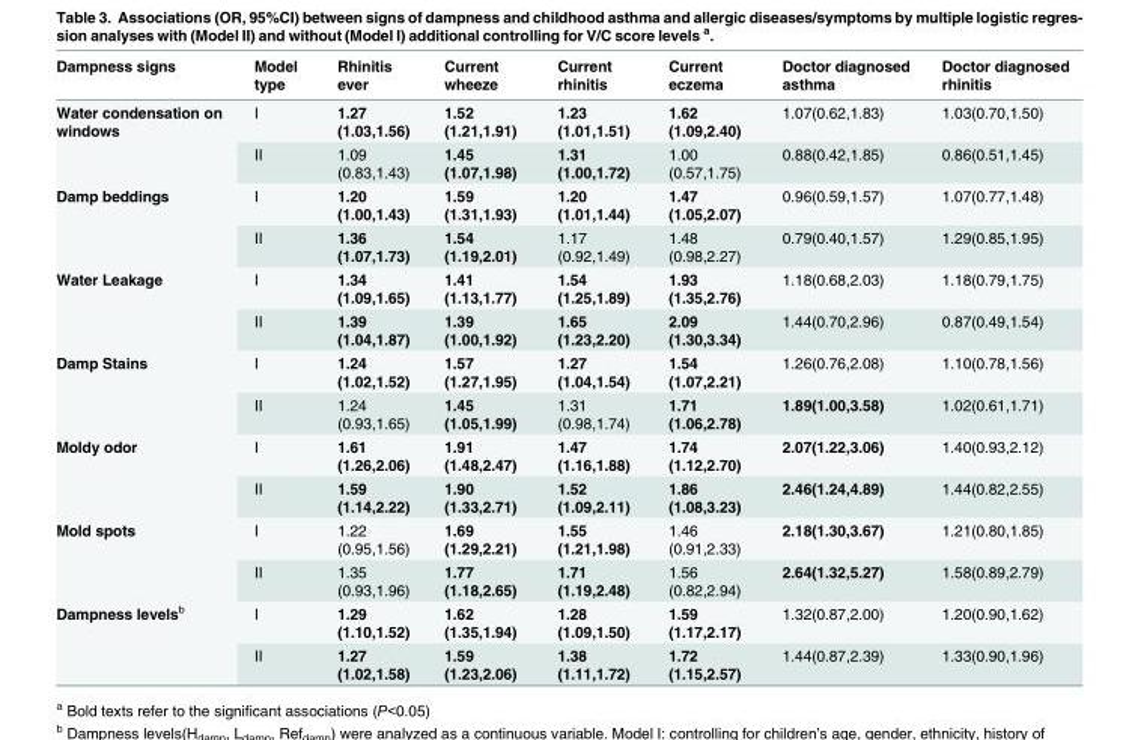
<table><thead><tr><td>Dampness signs</td><td>Model type</td><td>Rhinitis ever</td><td>Current wheeze</td><td>Current rhinitis</td><td>Current eczema</td><td>Doctor diagnosed asthma</td><td>Doctor diagnosed rhinitis</td></tr></thead><tbody><tr><td rowspan="2">Water condensation on windows</td><td>I</td><td>1.27 (1.03,1.56)</td><td>1.52 (1.21,1.91)</td><td>1.23 (1.01,1.51)</td><td>1.62 (1.09,2.40)</td><td>1.07(0.62,1.83)</td><td>1.03(0.70,1.50)</td></tr><tr><td>II</td><td>1.09 (0.83,1.43)</td><td>1.45 (1.07,1.98)</td><td>1.31 (1.00,1.72)</td><td>1.00 (0.57,1.75)</td><td>0.88(0.42,1.85)</td><td>0.86(0.51,1.45)</td></tr><tr><td rowspan="2">Damp beddings</td><td>I</td><td>1.20 (1.00,1.43)</td><td>1.59 (1.31,1.93)</td><td>1.20 (1.01,1.44)</td><td>1.47 (1.05,2.07)</td><td>0.96(0.59,1.57)</td><td>1.07(0.77,1.48)</td></tr><tr><td>II</td><td>1.36 (1.07,1.73)</td><td>1.54 (1.19,2.01)</td><td>1.17 (0.92,1.49)</td><td>1.48 (0.98,2.27)</td><td>0.79(0.40,1.57)</td><td>1.29(0.85,1.95)</td></tr><tr><td rowspan="2">Water Leakage</td><td>I</td><td>1.34 (1.09,1.65)</td><td>1.41 (1.13,1.77)</td><td>1.54 (1.25,1.89)</td><td>1.93 (1.35,2.76)</td><td>1.18(0.68,2.03)</td><td>1.18(0.79,1.75)</td></tr><tr><td>II</td><td>1.39 (1.04,1.87)</td><td>1.39 (1.00,1.92)</td><td>1.65 (1.23,2.20)</td><td>2.09 (1.30,3.34)</td><td>1.44(0.70,2.96)</td><td>0.87(0.49,1.54)</td></tr><tr><td rowspan="2">Damp Stains</td><td>I</td><td>1.24 (1.02,1.52)</td><td>1.57 (1.27,1.95)</td><td>1.27 (1.04,1.54)</td><td>1.54 (1.07,2.21)</td><td>1.26(0.76,2.08)</td><td>1.10(0.78,1.56)</td></tr><tr><td>II</td><td>1.24 (0.93,1.65)</td><td>1.45 (1.05,1.99)</td><td>1.31 (0.98,1.74)</td><td>1.71 (1.06,2.78)</td><td>1.89(1.00,3.58)</td><td>1.02(0.61,1.71)</td></tr><tr><td rowspan="2">Moldy odor</td><td>I</td><td>1.61 (1.26,2.06)</td><td>1.91 (1.48,2.47)</td><td>1.47 (1.16,1.88)</td><td>1.74 (1.12,2.70)</td><td>2.07(1.22,3.06)</td><td>1.40(0.93,2.12)</td></tr><tr><td>II</td><td>1.59 (1.14,2.22)</td><td>1.90 (1.33,2.71)</td><td>1.52 (1.09,2.11)</td><td>1.86 (1.08,3.23)</td><td>2.46(1.24,4.89)</td><td>1.44(0.82,2.55)</td></tr><tr><td rowspan="2">Mold spots</td><td>I</td><td>1.22 (0.95,1.56)</td><td>1.69 (1.29,2.21)</td><td>1.55 (1.21,1.98)</td><td>1.46 (0.91,2.33)</td><td>2.18(1.30,3.67)</td><td>1.21(0.80,1.85)</td></tr><tr><td>II</td><td>1.35 (0.93,1.96)</td><td>1.77 (1.18,2.65)</td><td>1.71 (1.19,2.48)</td><td>1.56 (0.82,2.94)</td><td>2.64(1.32,5.27)</td><td>1.58(0.89,2.79)</td></tr><tr><td rowspan="2">Dampness levels<sup>b</sup></td><td>I</td><td>1.29 (1.10,1.52)</td><td>1.62 (1.35,1.94)</td><td>1.28 (1.09,1.50)</td><td>1.59 (1.17,2.17)</td><td>1.32(0.87,2.00)</td><td>1.20(0.90,1.62)</td></tr><tr><td>II</td><td>1.27 (1.02,1.58)</td><td>1.59 (1.23,2.06)</td><td>1.38 (1.11,1.72)</td><td>1.72 (1.15,2.57)</td><td>1.44(0.87,2.39)</td><td>1.33(0.90,1.96)</td></tr></tbody></table>